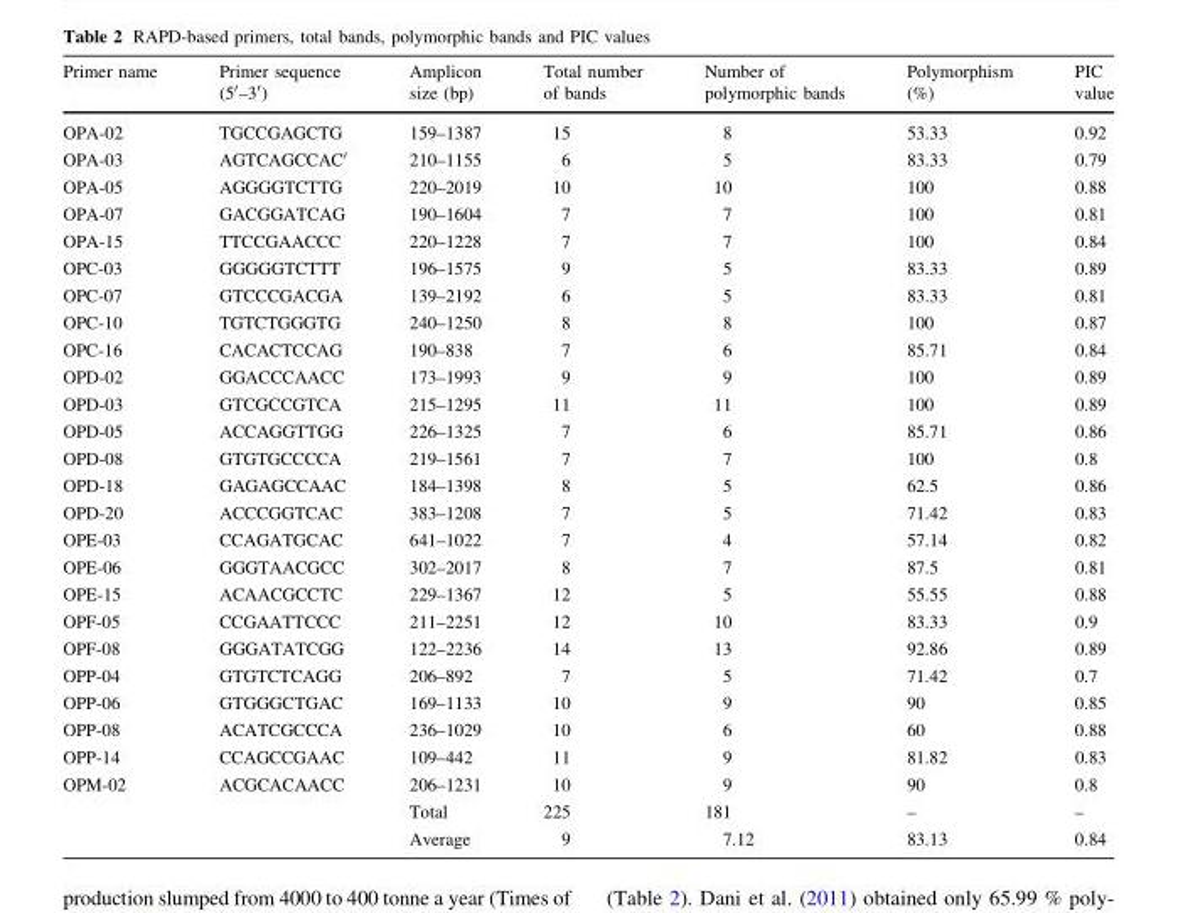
<table><thead><tr><td>Primer name</td><td>Primer sequence (5′–3′)</td><td>Amplicon size (bp)</td><td>Total number of bands</td><td>Number of polymorphic bands</td><td>Polymorphism (%)</td><td>PIC value</td></tr></thead><tbody><tr><td>OPA-02</td><td>TGCCGAGCTG</td><td>159–1387</td><td>15</td><td>8</td><td>53.33</td><td>0.92</td></tr><tr><td>OPA-03</td><td>AGTCAGCCAC′</td><td>210–1155</td><td>6</td><td>5</td><td>83.33</td><td>0.79</td></tr><tr><td>OPA-05</td><td>AGGGGTCTTG</td><td>220–2019</td><td>10</td><td>10</td><td>100</td><td>0.88</td></tr><tr><td>OPA-07</td><td>GACGGATCAG</td><td>190–1604</td><td>7</td><td>7</td><td>100</td><td>0.81</td></tr><tr><td>OPA-15</td><td>TTCCGAACCC</td><td>220–1228</td><td>7</td><td>7</td><td>100</td><td>0.84</td></tr><tr><td>OPC-03</td><td>GGGGGTCTTT</td><td>196–1575</td><td>9</td><td>5</td><td>83.33</td><td>0.89</td></tr><tr><td>OPC-07</td><td>GTCCCGACGA</td><td>139–2192</td><td>6</td><td>5</td><td>83.33</td><td>0.81</td></tr><tr><td>OPC-10</td><td>TGTCTGGGTG</td><td>240–1250</td><td>8</td><td>8</td><td>100</td><td>0.87</td></tr><tr><td>OPC-16</td><td>CACACTCCAG</td><td>190–838</td><td>7</td><td>6</td><td>85.71</td><td>0.84</td></tr><tr><td>OPD-02</td><td>GGACCCAACC</td><td>173–1993</td><td>9</td><td>9</td><td>100</td><td>0.89</td></tr><tr><td>OPD-03</td><td>GTCGCCGTCA</td><td>215–1295</td><td>11</td><td>11</td><td>100</td><td>0.89</td></tr><tr><td>OPD-05</td><td>ACCAGGTTGG</td><td>226–1325</td><td>7</td><td>6</td><td>85.71</td><td>0.86</td></tr><tr><td>OPD-08</td><td>GTGTGCCCCA</td><td>219–1561</td><td>7</td><td>7</td><td>100</td><td>0.8</td></tr><tr><td>OPD-18</td><td>GAGAGCCAAC</td><td>184–1398</td><td>8</td><td>5</td><td>62.5</td><td>0.86</td></tr><tr><td>OPD-20</td><td>ACCCGGTCAC</td><td>383–1208</td><td>7</td><td>5</td><td>71.42</td><td>0.83</td></tr><tr><td>OPE-03</td><td>CCAGATGCAC</td><td>641–1022</td><td>7</td><td>4</td><td>57.14</td><td>0.82</td></tr><tr><td>OPE-06</td><td>GGGTAACGCC</td><td>302–2017</td><td>8</td><td>7</td><td>87.5</td><td>0.81</td></tr><tr><td>OPE-15</td><td>ACAACGCCTC</td><td>229–1367</td><td>12</td><td>5</td><td>55.55</td><td>0.88</td></tr><tr><td>OPF-05</td><td>CCGAATTCCC</td><td>211–2251</td><td>12</td><td>10</td><td>83.33</td><td>0.9</td></tr><tr><td>OPF-08</td><td>GGGATATCGG</td><td>122–2236</td><td>14</td><td>13</td><td>92.86</td><td>0.89</td></tr><tr><td>OPP-04</td><td>GTGTCTCAGG</td><td>206–892</td><td>7</td><td>5</td><td>71.42</td><td>0.7</td></tr><tr><td>OPP-06</td><td>GTGGGCTGAC</td><td>169–1133</td><td>10</td><td>9</td><td>90</td><td>0.85</td></tr><tr><td>OPP-08</td><td>ACATCGCCCA</td><td>236–1029</td><td>10</td><td>6</td><td>60</td><td>0.88</td></tr><tr><td>OPP-14</td><td>CCAGCCGAAC</td><td>109–442</td><td>11</td><td>9</td><td>81.82</td><td>0.83</td></tr><tr><td rowspan="3">OPM-02</td><td>ACGCACAACC</td><td>206–1231</td><td>10</td><td>9</td><td>90</td><td>0.8</td></tr><tr><td></td><td>Total</td><td>225</td><td>181</td><td>–</td><td>–</td></tr><tr><td></td><td>Average</td><td>9</td><td>7.12</td><td>83.13</td><td>0.84</td></tr></tbody></table>